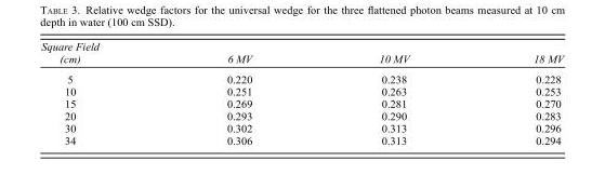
<table><thead><tr><td>Square Field (cm)</td><td>6 MV</td><td>10 MV</td><td>18 MV</td></tr></thead><tbody><tr><td>5</td><td>0.220</td><td>0.238</td><td>0.228</td></tr><tr><td>10</td><td>0.251</td><td>0.263</td><td>0.253</td></tr><tr><td>15</td><td>0.269</td><td>0.281</td><td>0.270</td></tr><tr><td>20</td><td>0.293</td><td>0.290</td><td>0.283</td></tr><tr><td>30</td><td>0.302</td><td>0.313</td><td>0.296</td></tr><tr><td>34</td><td>0.306</td><td>0.313</td><td>0.294</td></tr></tbody></table>